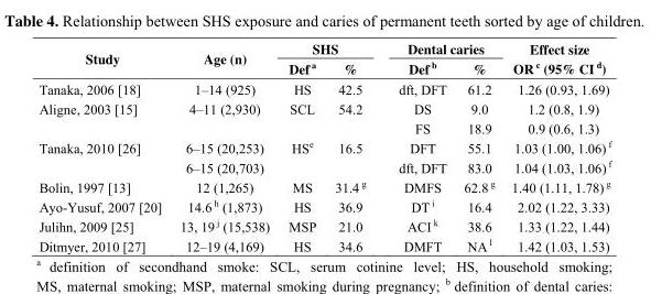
<table><thead><tr><td rowspan="2">Study</td><td rowspan="2">Age (n)</td><td colspan="2">SHS</td><td colspan="2">Dental caries</td><td rowspan="2">Effect size OR <sup>c</sup> (95% CI <sup>d</sup>)</td></tr><tr><td>Def <sup>a</sup></td><td>%</td><td>Def <sup>b</sup></td><td>%</td></tr></thead><tbody><tr><td>Tanaka, 2006 [18]</td><td>1–14 (925)</td><td>HS</td><td>42.5</td><td>dft, DFT</td><td>61.2</td><td>1.26 (0.93, 1.69)</td></tr><tr><td rowspan="2">Aligne, 2003 [15]</td><td>4–11 (2,930)</td><td>SCL</td><td>54.2</td><td>DS</td><td>9.0</td><td>1.2 (0.8, 1.9)</td></tr><tr><td></td><td></td><td></td><td>FS</td><td>18.9</td><td>0.9 (0.6, 1.3)</td></tr><tr><td rowspan="2">Tanaka, 2010 [26]</td><td>6–15 (20,253)</td><td>HS<sup>e</sup></td><td>16.5</td><td>DFT</td><td>55.1</td><td>1.03 (1.00, 1.06) <sup>f</sup></td></tr><tr><td>6–15 (20,703)</td><td></td><td></td><td>dft, DFT</td><td>83.0</td><td>1.04 (1.03, 1.06) <sup>f</sup></td></tr><tr><td>Bolin, 1997 [13]</td><td>12 (1,265)</td><td>MS</td><td>31.4 <sup>g</sup></td><td>DMFS</td><td>62.8 <sup>g</sup></td><td>1.40 (1.11, 1.78) <sup>g</sup></td></tr><tr><td>Ayo-Yusuf, 2007 [20]</td><td>14.6 <sup>h</sup> (1,873)</td><td>HS</td><td>36.9</td><td>DT <sup>i</sup></td><td>16.4</td><td>2.02 (1.22, 3.33)</td></tr><tr><td>Julihn, 2009 [25]</td><td>13, 19 <sup>j</sup> (15,538)</td><td>MSP</td><td>21.0</td><td>ACI <sup>k</sup></td><td>38.6</td><td>1.33 (1.22, 1.44)</td></tr><tr><td>Ditmyer, 2010 [27]</td><td>12–19 (4,169)</td><td>HS</td><td>34.6</td><td>DMFT</td><td>NA <sup>l</sup></td><td>1.42 (1.03, 1.53)</td></tr></tbody></table>